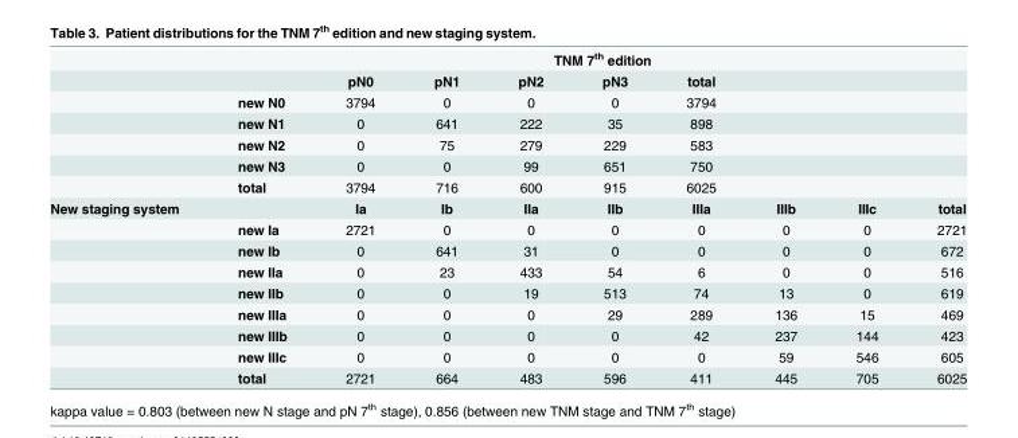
<table><thead><tr><td rowspan="2"></td><td colspan="9">TNM 7<sup>th</sup> edition</td></tr><tr><td></td><td>pN0</td><td>pN1</td><td>pN2</td><td>pN3</td><td>total</td><td></td><td></td><td></td></tr></thead><tbody><tr><td></td><td>new N0</td><td>3794</td><td>0</td><td>0</td><td>0</td><td>3794</td><td></td><td></td><td></td></tr><tr><td></td><td>new N1</td><td>0</td><td>641</td><td>222</td><td>35</td><td>898</td><td></td><td></td><td></td></tr><tr><td></td><td>new N2</td><td>0</td><td>75</td><td>279</td><td>229</td><td>583</td><td></td><td></td><td></td></tr><tr><td></td><td>new N3</td><td>0</td><td>0</td><td>99</td><td>651</td><td>750</td><td></td><td></td><td></td></tr><tr><td></td><td>total</td><td>3794</td><td>716</td><td>600</td><td>915</td><td>6025</td><td></td><td></td><td></td></tr><tr><td rowspan="9">New staging system</td><td></td><td>Ia</td><td>Ib</td><td>IIa</td><td>IIb</td><td>IIIa</td><td>IIIb</td><td>IIIc</td><td>total</td></tr><tr><td>new Ia</td><td>2721</td><td>0</td><td>0</td><td>0</td><td>0</td><td>0</td><td>0</td><td>2721</td></tr><tr><td>new Ib</td><td>0</td><td>641</td><td>31</td><td>0</td><td>0</td><td>0</td><td>0</td><td>672</td></tr><tr><td>new IIa</td><td>0</td><td>23</td><td>433</td><td>54</td><td>6</td><td>0</td><td>0</td><td>516</td></tr><tr><td>new IIb</td><td>0</td><td>0</td><td>19</td><td>513</td><td>74</td><td>13</td><td>0</td><td>619</td></tr><tr><td>new IIIa</td><td>0</td><td>0</td><td>0</td><td>29</td><td>289</td><td>136</td><td>15</td><td>469</td></tr><tr><td>new IIIb</td><td>0</td><td>0</td><td>0</td><td>0</td><td>42</td><td>237</td><td>144</td><td>423</td></tr><tr><td>new IIIc</td><td>0</td><td>0</td><td>0</td><td>0</td><td>0</td><td>59</td><td>546</td><td>605</td></tr><tr><td>total</td><td>2721</td><td>664</td><td>483</td><td>596</td><td>411</td><td>445</td><td>705</td><td>6025</td></tr></tbody></table>